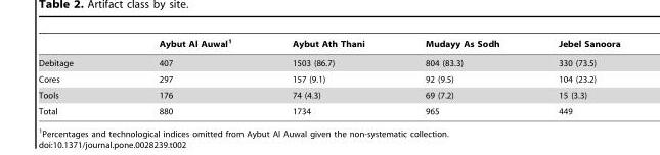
<table><thead><tr><td></td><td>Aybut Al Auwal<sup>1</sup></td><td>Aybut Ath Thani</td><td>Mudayy As Sodh</td><td>Jebel Sanoora</td></tr></thead><tbody><tr><td>Debitage</td><td>407</td><td>1503 (86.7)</td><td>804 (83.3)</td><td>330 (73.5)</td></tr><tr><td>Cores</td><td>297</td><td>157 (9.1)</td><td>92 (9.5)</td><td>104 (23.2)</td></tr><tr><td>Tools</td><td>176</td><td>74 (4.3)</td><td>69 (7.2)</td><td>15 (3.3)</td></tr><tr><td>Total</td><td>880</td><td>1734</td><td>965</td><td>449</td></tr></tbody></table>